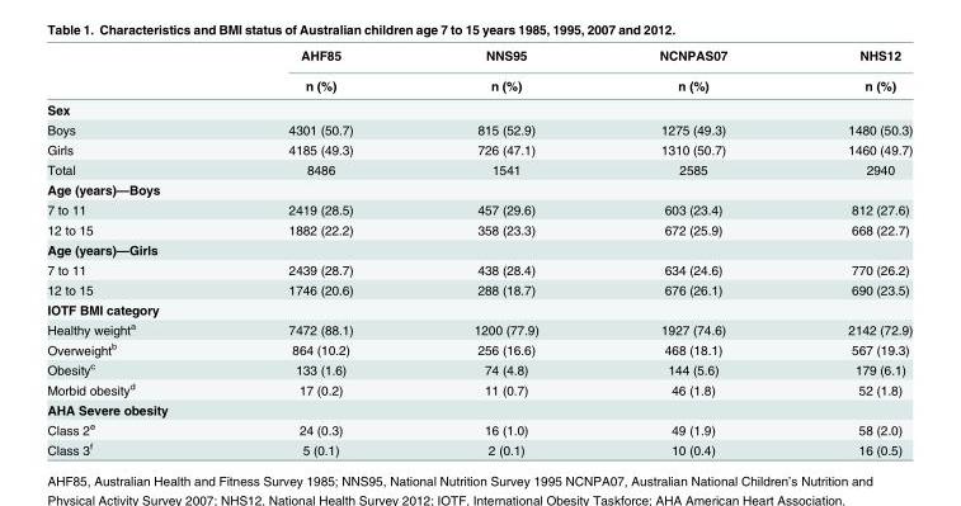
<table><thead><tr><td rowspan="2"></td><td rowspan="2">AHF85 n (%)</td><td rowspan="2">NNS95 n (%)</td><td rowspan="2">NCNPAS07 n (%)</td><td rowspan="2">NHS12 n (%)</td></tr><tr></tr></thead><tbody><tr><td colspan="5">Sex</td></tr><tr><td>Boys</td><td>4301 (50.7)</td><td>815 (52.9)</td><td>1275 (49.3)</td><td>1480 (50.3)</td></tr><tr><td>Girls</td><td>4185 (49.3)</td><td>726 (47.1)</td><td>1310 (50.7)</td><td>1460 (49.7)</td></tr><tr><td>Total</td><td>8486</td><td>1541</td><td>2585</td><td>2940</td></tr><tr><td colspan="5">Age (years)—Boys</td></tr><tr><td>7 to 11</td><td>2419 (28.5)</td><td>457 (29.6)</td><td>603 (23.4)</td><td>812 (27.6)</td></tr><tr><td>12 to 15</td><td>1882 (22.2)</td><td>358 (23.3)</td><td>672 (25.9)</td><td>668 (22.7)</td></tr><tr><td colspan="5">Age (years)—Girls</td></tr><tr><td>7 to 11</td><td>2439 (28.7)</td><td>438 (28.4)</td><td>634 (24.6)</td><td>770 (26.2)</td></tr><tr><td>12 to 15</td><td>1746 (20.6)</td><td>288 (18.7)</td><td>676 (26.1)</td><td>690 (23.5)</td></tr><tr><td colspan="5">IOTF BMI category</td></tr><tr><td>Healthy weight<sup>a</sup></td><td>7472 (88.1)</td><td>1200 (77.9)</td><td>1927 (74.6)</td><td>2142 (72.9)</td></tr><tr><td>Overweight<sup>b</sup></td><td>864 (10.2)</td><td>256 (16.6)</td><td>468 (18.1)</td><td>567 (19.3)</td></tr><tr><td>Obesity<sup>c</sup></td><td>133 (1.6)</td><td>74 (4.8)</td><td>144 (5.6)</td><td>179 (6.1)</td></tr><tr><td>Morbid obesity<sup>d</sup></td><td>17 (0.2)</td><td>11 (0.7)</td><td>46 (1.8)</td><td>52 (1.8)</td></tr><tr><td colspan="5">AHA Severe obesity</td></tr><tr><td>Class 2<sup>e</sup></td><td>24 (0.3)</td><td>16 (1.0)</td><td>49 (1.9)</td><td>58 (2.0)</td></tr><tr><td>Class 3<sup>f</sup></td><td>5 (0.1)</td><td>2 (0.1)</td><td>10 (0.4)</td><td>16 (0.5)</td></tr></tbody></table>